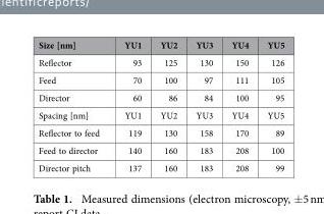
<table><thead><tr><td>Size [nm]</td><td>YU1</td><td>YU2</td><td>YU3</td><td>YU4</td><td>YU5</td></tr></thead><tbody><tr><td>Reflector</td><td>93</td><td>125</td><td>130</td><td>150</td><td>126</td></tr><tr><td>Feed</td><td>70</td><td>100</td><td>97</td><td>111</td><td>105</td></tr><tr><td>Director</td><td>60</td><td>86</td><td>84</td><td>100</td><td>95</td></tr><tr><td>Spacing [nm]</td><td>YU1</td><td>YU2</td><td>YU3</td><td>YU4</td><td>YU5</td></tr><tr><td>Reflector to feed</td><td>119</td><td>130</td><td>158</td><td>170</td><td>89</td></tr><tr><td>Feed to director</td><td>140</td><td>160</td><td>183</td><td>208</td><td>100</td></tr><tr><td>Director pitch</td><td>137</td><td>160</td><td>183</td><td>208</td><td>99</td></tr></tbody></table>